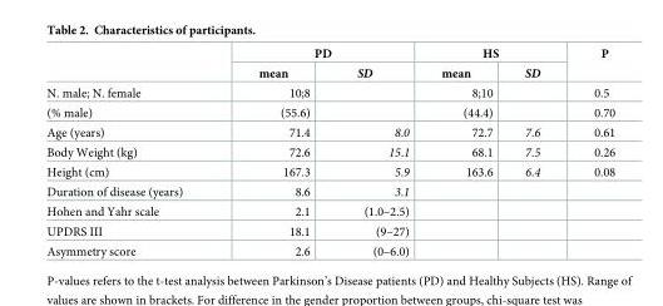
<table><thead><tr><td rowspan="2"></td><td colspan="2">PD</td><td colspan="2">HS</td><td rowspan="2">P</td></tr><tr><td>mean</td><td>SD</td><td>mean</td><td>SD</td></tr></thead><tbody><tr><td>N. male; N. female</td><td>10;8</td><td></td><td>8;10</td><td></td><td>0.5</td></tr><tr><td>(% male)</td><td>(55.6)</td><td></td><td>(44.4)</td><td></td><td>0.70</td></tr><tr><td>Age (years)</td><td>71.4</td><td>8.0</td><td>72.7</td><td>7.6</td><td>0.61</td></tr><tr><td>Body Weight (kg)</td><td>72.6</td><td>15.1</td><td>68.1</td><td>7.5</td><td>0.26</td></tr><tr><td>Height (cm)</td><td>167.3</td><td>5.9</td><td>163.6</td><td>6.4</td><td>0.08</td></tr><tr><td>Duration of disease (years)</td><td>8.6</td><td>3.1</td><td></td><td></td><td></td></tr><tr><td>Hohen and Yahr scale</td><td>2.1</td><td>(1.0–2.5)</td><td></td><td></td><td></td></tr><tr><td>UPDRS III</td><td>18.1</td><td>(9–27)</td><td></td><td></td><td></td></tr><tr><td>Asymmetry score</td><td>2.6</td><td>(0–6.0)</td><td></td><td></td><td></td></tr></tbody></table>